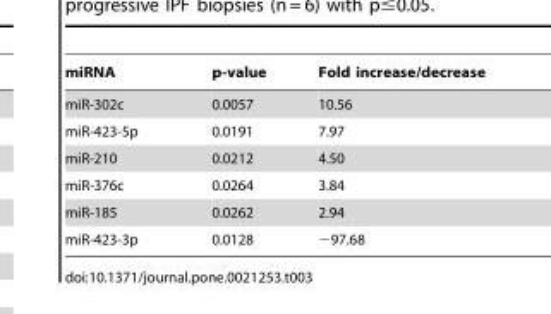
<table><thead><tr><td>miRNA</td><td>p-value</td><td>Fold increase/decrease</td></tr></thead><tbody><tr><td>miR-302c</td><td>0.0057</td><td>10.56</td></tr><tr><td>miR-423-5p</td><td>0.0191</td><td>7.97</td></tr><tr><td>miR-210</td><td>0.0212</td><td>4.50</td></tr><tr><td>miR-376c</td><td>0.0264</td><td>3.84</td></tr><tr><td>miR-185</td><td>0.0262</td><td>2.94</td></tr><tr><td>miR-423-3p</td><td>0.0128</td><td>−97.68</td></tr></tbody></table>